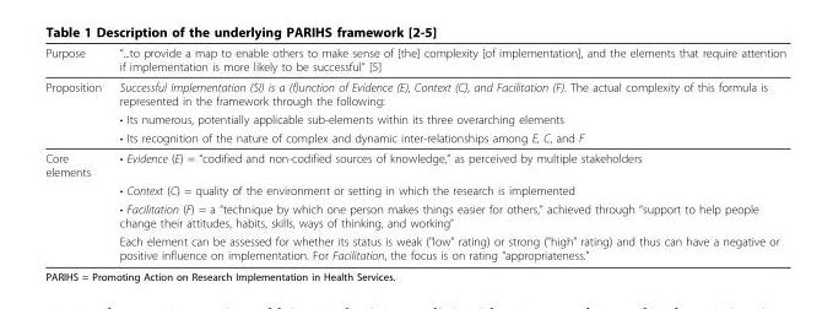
<table><thead><tr><td>Purpose</td><td>“...to provide a map to enable others to make sense of [the] complexity [of implementation], and the elements that require attention if implementation is more likely to be successful” [5]</td></tr></thead><tbody><tr><td rowspan="3">Proposition</td><td>Successful Implementation (SI) is a (f)unction of Evidence (E), Context (C), and Facilitation (F). The actual complexity of this formula is represented in the framework through the following:</td></tr><tr><td>• Its numerous, potentially applicable sub-elements within its three overarching elements</td></tr><tr><td>• Its recognition of the nature of complex and dynamic inter-relationships among E, C, and F</td></tr><tr><td rowspan="4">Core elements</td><td>• Evidence (E) = “codified and non-codified sources of knowledge,” as perceived by multiple stakeholders</td></tr><tr><td>• Context (C) = quality of the environment or setting in which the research is implemented</td></tr><tr><td>• Facilitation (F) = a “technique by which one person makes things easier for others,” achieved through “support to help people change their attitudes, habits, skills, ways of thinking, and working”</td></tr><tr><td>Each element can be assessed for whether its status is weak (&quot;low” rating) or strong (&quot;high” rating) and thus can have a negative or positive influence on implementation. For Facilitation, the focus is on rating “appropriateness.”</td></tr></tbody></table>